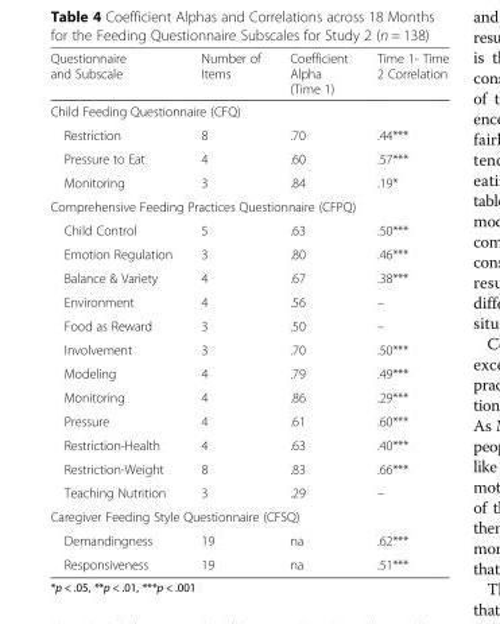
<table><thead><tr><td>Questionnaire and Subscale</td><td>Number of Items</td><td>Coefficient Alpha (Time 1)</td><td>Time 1- Time 2 Correlation</td></tr></thead><tbody><tr><td colspan="4">Child Feeding Questionnaire (CFQ)</td></tr><tr><td>Restriction</td><td>8</td><td>.70</td><td>.44***</td></tr><tr><td>Pressure to Eat</td><td>4</td><td>.60</td><td>.57***</td></tr><tr><td>Monitoring</td><td>3</td><td>.84</td><td>.19*</td></tr><tr><td colspan="4">Comprehensive Feeding Practices Questionnaire (CFPQ)</td></tr><tr><td>Child Control</td><td>5</td><td>.63</td><td>.50***</td></tr><tr><td>Emotion Regulation</td><td>3</td><td>.80</td><td>.46***</td></tr><tr><td>Balance &amp; Variety</td><td>4</td><td>.67</td><td>.38***</td></tr><tr><td>Environment</td><td>4</td><td>.56</td><td>–</td></tr><tr><td>Food as Reward</td><td>3</td><td>.50</td><td>–</td></tr><tr><td>Involvement</td><td>3</td><td>.70</td><td>.50***</td></tr><tr><td>Modeling</td><td>4</td><td>.79</td><td>.49***</td></tr><tr><td>Monitoring</td><td>4</td><td>.86</td><td>.29***</td></tr><tr><td>Pressure</td><td>4</td><td>.61</td><td>.60***</td></tr><tr><td>Restriction-Health</td><td>4</td><td>.63</td><td>.40***</td></tr><tr><td>Restriction-Weight</td><td>8</td><td>.83</td><td>.66***</td></tr><tr><td>Teaching Nutrition</td><td>3</td><td>.29</td><td>–</td></tr><tr><td colspan="4">Caregiver Feeding Style Questionnaire (CFSQ)</td></tr><tr><td>Demandingness</td><td>19</td><td>na</td><td>.62***</td></tr><tr><td>Responsiveness</td><td>19</td><td>na</td><td>.51***</td></tr></tbody></table>